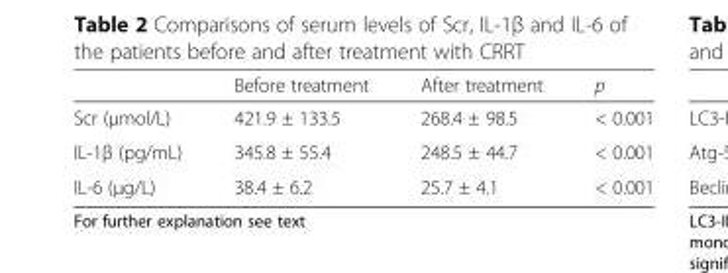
<table><thead><tr><td></td><td>Before treatment</td><td>After treatment</td><td>p</td></tr></thead><tbody><tr><td>Scr (μmol/L)</td><td>421.9 ± 133.5</td><td>268.4 ± 98.5</td><td>&lt; 0.001</td></tr><tr><td>IL-1β (pg/mL)</td><td>345.8 ± 55.4</td><td>248.5 ± 44.7</td><td>&lt; 0.001</td></tr><tr><td>IL-6 (μg/L)</td><td>38.4 ± 6.2</td><td>25.7 ± 4.1</td><td>&lt; 0.001</td></tr></tbody></table>